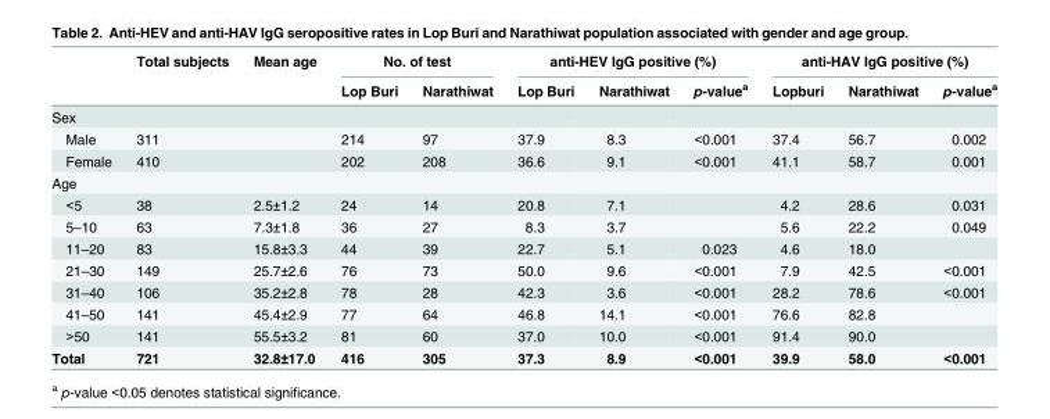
<table><thead><tr><td rowspan="2"></td><td rowspan="2">Total subjects</td><td rowspan="2">Mean age</td><td colspan="2">No. of test</td><td colspan="3">anti-HEV IgG positive (%)</td><td colspan="3">anti-HAV IgG positive (%)</td></tr><tr><td>Lop Buri</td><td>Narathiwat</td><td>Lop Buri</td><td>Narathiwat</td><td>p-value<sup>a</sup></td><td>Lopburi</td><td>Narathiwat</td><td>p-value<sup>a</sup></td></tr></thead><tbody><tr><td colspan="11">Sex</td></tr><tr><td>Male</td><td>311</td><td></td><td>214</td><td>97</td><td>37.9</td><td>8.3</td><td>&lt;0.001</td><td>37.4</td><td>56.7</td><td>0.002</td></tr><tr><td>Female</td><td>410</td><td></td><td>202</td><td>208</td><td>36.6</td><td>9.1</td><td>&lt;0.001</td><td>41.1</td><td>58.7</td><td>0.001</td></tr><tr><td colspan="11">Age</td></tr><tr><td>&lt;5</td><td>38</td><td>2.5±1.2</td><td>24</td><td>14</td><td>20.8</td><td>7.1</td><td></td><td>4.2</td><td>28.6</td><td>0.031</td></tr><tr><td>5–10</td><td>63</td><td>7.3±1.8</td><td>36</td><td>27</td><td>8.3</td><td>3.7</td><td></td><td>5.6</td><td>22.2</td><td>0.049</td></tr><tr><td>11–20</td><td>83</td><td>15.8±3.3</td><td>44</td><td>39</td><td>22.7</td><td>5.1</td><td>0.023</td><td>4.6</td><td>18.0</td><td></td></tr><tr><td>21–30</td><td>149</td><td>25.7±2.6</td><td>76</td><td>73</td><td>50.0</td><td>9.6</td><td>&lt;0.001</td><td>7.9</td><td>42.5</td><td>&lt;0.001</td></tr><tr><td>31–40</td><td>106</td><td>35.2±2.8</td><td>78</td><td>28</td><td>42.3</td><td>3.6</td><td>&lt;0.001</td><td>28.2</td><td>78.6</td><td>&lt;0.001</td></tr><tr><td>41–50</td><td>141</td><td>45.4±2.9</td><td>77</td><td>64</td><td>46.8</td><td>14.1</td><td>&lt;0.001</td><td>76.6</td><td>82.8</td><td></td></tr><tr><td>&gt;50</td><td>141</td><td>55.5±3.2</td><td>81</td><td>60</td><td>37.0</td><td>10.0</td><td>&lt;0.001</td><td>91.4</td><td>90.0</td><td></td></tr><tr><td>Total</td><td>721</td><td>32.8±17.0</td><td>416</td><td>305</td><td>37.3</td><td>8.9</td><td>&lt;0.001</td><td>39.9</td><td>58.0</td><td>&lt;0.001</td></tr></tbody></table>